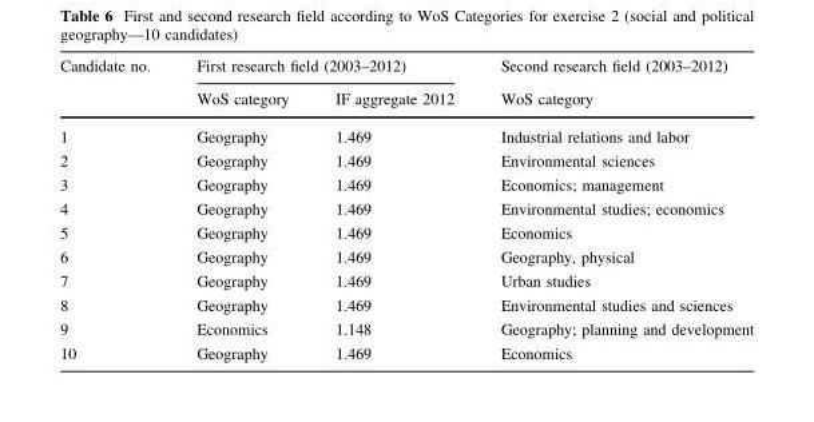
<table><thead><tr><td rowspan="2">Candidate no.</td><td colspan="2">First research field (2003–2012)</td><td rowspan="2">Second research field (2003–2012) WoS category</td></tr><tr><td>WoS category</td><td>IF aggregate 2012</td></tr></thead><tbody><tr><td>1</td><td>Geography</td><td>1.469</td><td>Industrial relations and labor</td></tr><tr><td>2</td><td>Geography</td><td>1.469</td><td>Environmental sciences</td></tr><tr><td>3</td><td>Geography</td><td>1.469</td><td>Economics; management</td></tr><tr><td>4</td><td>Geography</td><td>1.469</td><td>Environmental studies; economics</td></tr><tr><td>5</td><td>Geography</td><td>1.469</td><td>Economics</td></tr><tr><td>6</td><td>Geography</td><td>1.469</td><td>Geography, physical</td></tr><tr><td>7</td><td>Geography</td><td>1.469</td><td>Urban studies</td></tr><tr><td>8</td><td>Geography</td><td>1.469</td><td>Environmental studies and sciences</td></tr><tr><td>9</td><td>Economics</td><td>1.148</td><td>Geography; planning and development</td></tr><tr><td>10</td><td>Geography</td><td>1.469</td><td>Economics</td></tr></tbody></table>